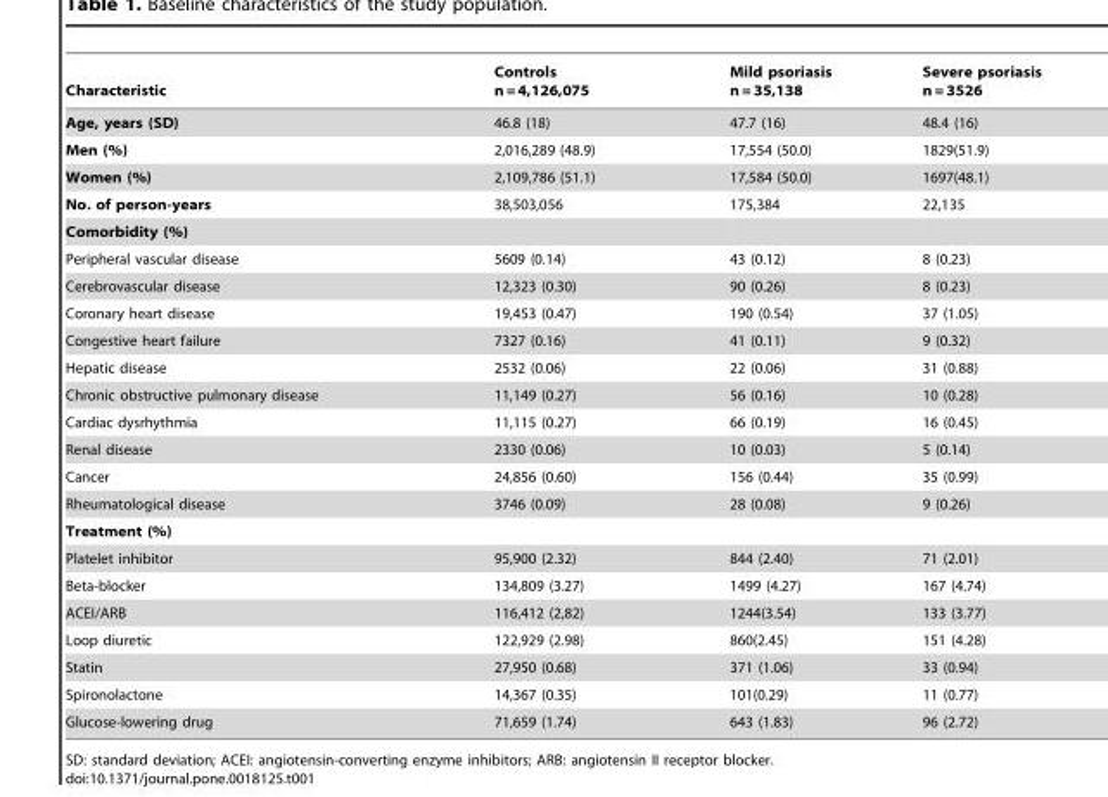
<table><thead><tr><td>Characteristic</td><td>Controls n = 4,126,075</td><td>Mild psoriasis n = 35,138</td><td>Severe psoriasis n = 3526</td></tr></thead><tbody><tr><td>Age, years (SD)</td><td>46.8 (18)</td><td>47.7 (16)</td><td>48.4 (16)</td></tr><tr><td>Men (%)</td><td>2,016,289 (48.9)</td><td>17,554 (50.0)</td><td>1829(51.9)</td></tr><tr><td>Women (%)</td><td>2,109,786 (51.1)</td><td>17,584 (50.0)</td><td>1697(48.1)</td></tr><tr><td>No. of person-years</td><td>38,503,056</td><td>175,384</td><td>22,135</td></tr><tr><td colspan="4">Comorbidity (%)</td></tr><tr><td>Peripheral vascular disease</td><td>5609 (0.14)</td><td>43 (0.12)</td><td>8 (0.23)</td></tr><tr><td>Cerebrovascular disease</td><td>12,323 (0.30)</td><td>90 (0.26)</td><td>8 (0.23)</td></tr><tr><td>Coronary heart disease</td><td>19,453 (0.47)</td><td>190 (0.54)</td><td>37 (1.05)</td></tr><tr><td>Congestive heart failure</td><td>7327 (0.16)</td><td>41 (0.11)</td><td>9 (0.32)</td></tr><tr><td>Hepatic disease</td><td>2532 (0.06)</td><td>22 (0.06)</td><td>31 (0.88)</td></tr><tr><td>Chronic obstructive pulmonary disease</td><td>11,149 (0.27)</td><td>56 (0.16)</td><td>10 (0.28)</td></tr><tr><td>Cardiac dysrhythmia</td><td>11,115 (0.27)</td><td>66 (0.19)</td><td>16 (0.45)</td></tr><tr><td>Renal disease</td><td>2330 (0.06)</td><td>10 (0.03)</td><td>5 (0.14)</td></tr><tr><td>Cancer</td><td>24,856 (0.60)</td><td>156 (0.44)</td><td>35 (0.99)</td></tr><tr><td>Rheumatological disease</td><td>3746 (0.09)</td><td>28 (0.08)</td><td>9 (0.26)</td></tr><tr><td colspan="4">Treatment (%)</td></tr><tr><td>Platelet inhibitor</td><td>95,900 (2.32)</td><td>844 (2.40)</td><td>71 (2.01)</td></tr><tr><td>Beta-blocker</td><td>134,809 (3.27)</td><td>1499 (4.27)</td><td>167 (4.74)</td></tr><tr><td>ACEI/ARB</td><td>116,412 (2,82)</td><td>1244(3.54)</td><td>133 (3.77)</td></tr><tr><td>Loop diuretic</td><td>122,929 (2.98)</td><td>860(2.45)</td><td>151 (4.28)</td></tr><tr><td>Statin</td><td>27,950 (0.68)</td><td>371 (1.06)</td><td>33 (0.94)</td></tr><tr><td>Spironolactone</td><td>14,367 (0.35)</td><td>101(0.29)</td><td>11 (0.77)</td></tr><tr><td>Glucose-lowering drug</td><td>71,659 (1.74)</td><td>643 (1.83)</td><td>96 (2.72)</td></tr></tbody></table>